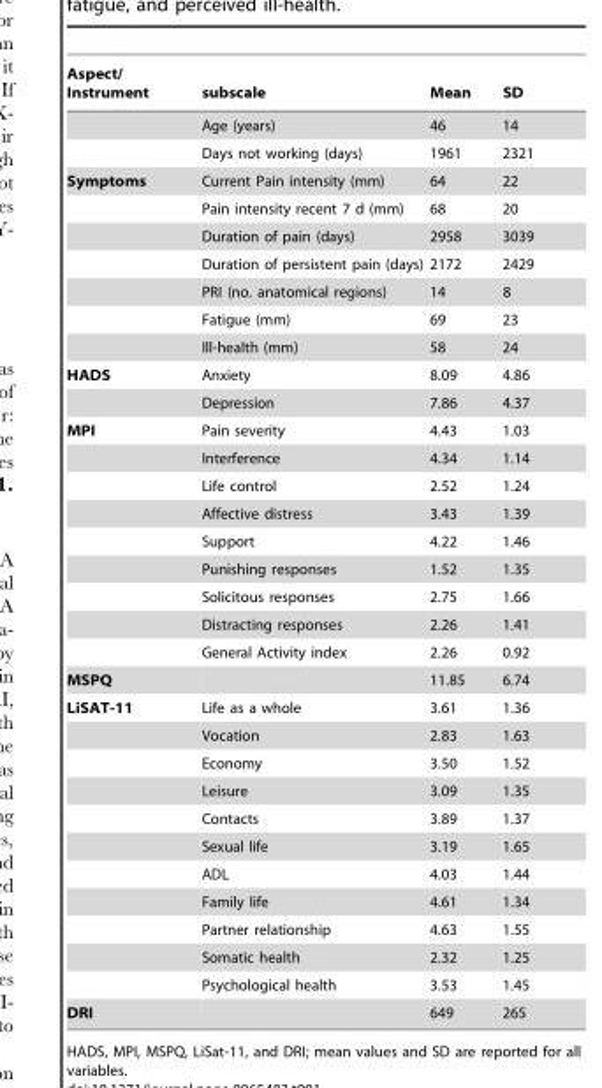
<table><thead><tr><td>Aspect/ Instrument</td><td>subscale</td><td>Mean</td><td>SD</td></tr></thead><tbody><tr><td></td><td>Age (years)</td><td>46</td><td>14</td></tr><tr><td></td><td>Days not working (days)</td><td>1961</td><td>2321</td></tr><tr><td rowspan="7">Symptoms</td><td>Current Pain intensity (mm)</td><td>64</td><td>22</td></tr><tr><td>Pain intensity recent 7 d (mm)</td><td>68</td><td>20</td></tr><tr><td>Duration of pain (days)</td><td>2958</td><td>3039</td></tr><tr><td>Duration of persistent pain (days)</td><td>2172</td><td>2429</td></tr><tr><td>PRI (no. anatomical regions)</td><td>14</td><td>8</td></tr><tr><td>Fatigue (mm)</td><td>69</td><td>23</td></tr><tr><td>Ill-health (mm)</td><td>58</td><td>24</td></tr><tr><td rowspan="2">HADS</td><td>Anxiety</td><td>8.09</td><td>4.86</td></tr><tr><td>Depression</td><td>7.86</td><td>4.37</td></tr><tr><td rowspan="9">MPI</td><td>Pain severity</td><td>4.43</td><td>1.03</td></tr><tr><td>Interference</td><td>4.34</td><td>1.14</td></tr><tr><td>Life control</td><td>2.52</td><td>1.24</td></tr><tr><td>Affective distress</td><td>3.43</td><td>1.39</td></tr><tr><td>Support</td><td>4.22</td><td>1.46</td></tr><tr><td>Punishing responses</td><td>1.52</td><td>1.35</td></tr><tr><td>Solicitous responses</td><td>2.75</td><td>1.66</td></tr><tr><td>Distracting responses</td><td>2.26</td><td>1.41</td></tr><tr><td>General Activity index</td><td>2.26</td><td>0.92</td></tr><tr><td>MSPQ</td><td></td><td>11.85</td><td>6.74</td></tr><tr><td rowspan="11">LiSAT-11</td><td>Life as a whole</td><td>3.61</td><td>1.36</td></tr><tr><td>Vocation</td><td>2.83</td><td>1.63</td></tr><tr><td>Economy</td><td>3.50</td><td>1.52</td></tr><tr><td>Leisure</td><td>3.09</td><td>1.35</td></tr><tr><td>Contacts</td><td>3.89</td><td>1.37</td></tr><tr><td>Sexual life</td><td>3.19</td><td>1.65</td></tr><tr><td>ADL</td><td>4.03</td><td>1.44</td></tr><tr><td>Family life</td><td>4.61</td><td>1.34</td></tr><tr><td>Partner relationship</td><td>4.63</td><td>1.55</td></tr><tr><td>Somatic health</td><td>2.32</td><td>1.25</td></tr><tr><td>Psychological health</td><td>3.53</td><td>1.45</td></tr><tr><td>DRI</td><td></td><td>649</td><td>265</td></tr></tbody></table>